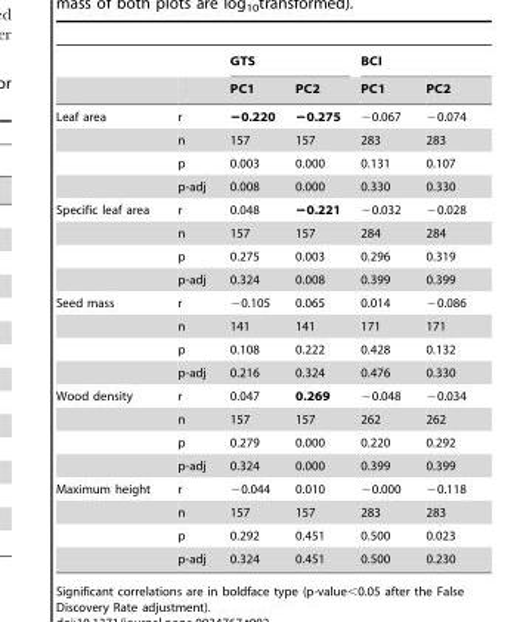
<table><thead><tr><td rowspan="2"></td><td rowspan="2"></td><td colspan="2">GTS</td><td colspan="2">BCI</td></tr><tr><td>PC1</td><td>PC2</td><td>PC1</td><td>PC2</td></tr></thead><tbody><tr><td rowspan="4">Leaf area</td><td>r</td><td>−0.220</td><td>−0.275</td><td>−0.067</td><td>−0.074</td></tr><tr><td>n</td><td>157</td><td>157</td><td>283</td><td>283</td></tr><tr><td>p</td><td>0.003</td><td>0.000</td><td>0.131</td><td>0.107</td></tr><tr><td>p-adj</td><td>0.008</td><td>0.000</td><td>0.330</td><td>0.330</td></tr><tr><td rowspan="4">Specific leaf area</td><td>r</td><td>0.048</td><td>−0.221</td><td>−0.032</td><td>−0.028</td></tr><tr><td>n</td><td>157</td><td>157</td><td>284</td><td>284</td></tr><tr><td>p</td><td>0.275</td><td>0.003</td><td>0.296</td><td>0.319</td></tr><tr><td>p-adj</td><td>0.324</td><td>0.008</td><td>0.399</td><td>0.399</td></tr><tr><td rowspan="4">Seed mass</td><td>r</td><td>−0.105</td><td>0.065</td><td>0.014</td><td>−0.086</td></tr><tr><td>n</td><td>141</td><td>141</td><td>171</td><td>171</td></tr><tr><td>p</td><td>0.108</td><td>0.222</td><td>0.428</td><td>0.132</td></tr><tr><td>p-adj</td><td>0.216</td><td>0.324</td><td>0.476</td><td>0.330</td></tr><tr><td rowspan="4">Wood density</td><td>r</td><td>0.047</td><td>0.269</td><td>−0.048</td><td>−0.034</td></tr><tr><td>n</td><td>157</td><td>157</td><td>262</td><td>262</td></tr><tr><td>p</td><td>0.279</td><td>0.000</td><td>0.220</td><td>0.292</td></tr><tr><td>p-adj</td><td>0.324</td><td>0.000</td><td>0.399</td><td>0.399</td></tr><tr><td rowspan="4">Maximum height</td><td>r</td><td>−0.044</td><td>0.010</td><td>−0.000</td><td>−0.118</td></tr><tr><td>n</td><td>157</td><td>157</td><td>283</td><td>283</td></tr><tr><td>p</td><td>0.292</td><td>0.451</td><td>0.500</td><td>0.023</td></tr><tr><td>p-adj</td><td>0.324</td><td>0.451</td><td>0.500</td><td>0.230</td></tr></tbody></table>